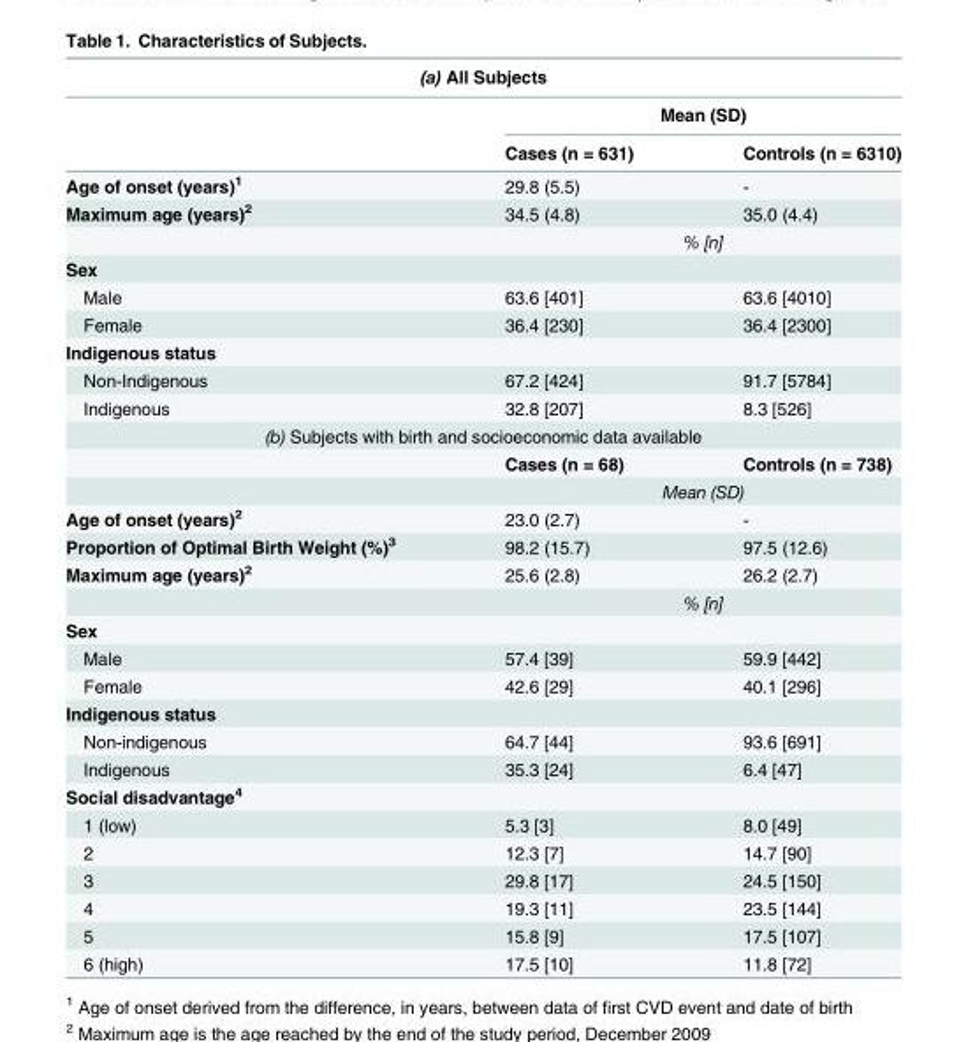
<table><thead><tr><td colspan="3">(a) All Subjects</td></tr><tr><td rowspan="2"></td><td colspan="2">Mean (SD)</td></tr><tr><td>Cases (n = 631)</td><td>Controls (n = 6310)</td></tr></thead><tbody><tr><td>Age of onset (years)<sup>1</sup></td><td>29.8 (5.5)</td><td>-</td></tr><tr><td rowspan="2">Maximum age (years)<sup>2</sup></td><td>34.5 (4.8)</td><td>35.0 (4.4)</td></tr><tr><td colspan="2">% [n]</td></tr><tr><td colspan="3">Sex</td></tr><tr><td>Male</td><td>63.6 [401]</td><td>63.6 [4010]</td></tr><tr><td>Female</td><td>36.4 [230]</td><td>36.4 [2300]</td></tr><tr><td colspan="3">Indigenous status</td></tr><tr><td>Non-Indigenous</td><td>67.2 [424]</td><td>91.7 [5784]</td></tr><tr><td>Indigenous</td><td>32.8 [207]</td><td>8.3 [526]</td></tr><tr><td colspan="3">(b) Subjects with birth and socioeconomic data available</td></tr><tr><td></td><td>Cases (n = 68)</td><td>Controls (n = 738)</td></tr><tr><td></td><td colspan="2">Mean (SD)</td></tr><tr><td>Age of onset (years)<sup>2</sup></td><td>23.0 (2.7)</td><td>-</td></tr><tr><td>Proportion of Optimal Birth Weight (%)<sup>3</sup></td><td>98.2 (15.7)</td><td>97.5 (12.6)</td></tr><tr><td rowspan="2">Maximum age (years)<sup>2</sup></td><td>25.6 (2.8)</td><td>26.2 (2.7)</td></tr><tr><td colspan="2">% [n]</td></tr><tr><td colspan="3">Sex</td></tr><tr><td>Male</td><td>57.4 [39]</td><td>59.9 [442]</td></tr><tr><td>Female</td><td>42.6 [29]</td><td>40.1 [296]</td></tr><tr><td colspan="3">Indigenous status</td></tr><tr><td>Non-indigenous</td><td>64.7 [44]</td><td>93.6 [691]</td></tr><tr><td>Indigenous</td><td>35.3 [24]</td><td>6.4 [47]</td></tr><tr><td colspan="3">Social disadvantage<sup>4</sup></td></tr><tr><td>1 (low)</td><td>5.3 [3]</td><td>8.0 [49]</td></tr><tr><td>2</td><td>12.3 [7]</td><td>14.7 [90]</td></tr><tr><td>3</td><td>29.8 [17]</td><td>24.5 [150]</td></tr><tr><td>4</td><td>19.3 [11]</td><td>23.5 [144]</td></tr><tr><td>5</td><td>15.8 [9]</td><td>17.5 [107]</td></tr><tr><td>6 (high)</td><td>17.5 [10]</td><td>11.8 [72]</td></tr></tbody></table>